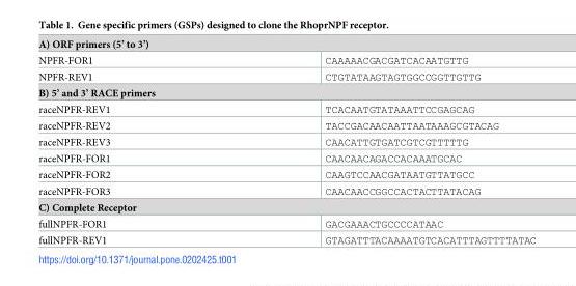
<table><tbody><tr><td colspan="2">A) ORF primers (5’ to 3’)</td></tr><tr><td>NPFR-FOR1</td><td>CAAAAACGACGATCACAATGTTG</td></tr><tr><td>NPFR-REV1</td><td>CTGTATAAGTAGTGGCCGGTTGTTG</td></tr><tr><td colspan="2">B) 5’ and 3’ RACE primers</td></tr><tr><td>raceNPFR-REV1</td><td>TCACAATGTATAAATTCCGAGCAG</td></tr><tr><td>raceNPFR-REV2</td><td>TACCGACAACAATTAATAAAGCGTACAG</td></tr><tr><td>raceNPFR-REV3</td><td>CAACATTGTGATCGTCGTTTTTG</td></tr><tr><td>raceNPFR-FOR1</td><td>CAACAACAGACCACAAATGCAC</td></tr><tr><td>raceNPFR-FOR2</td><td>CAAGTCCAACGATAATGTTATGCC</td></tr><tr><td>raceNPFR-FOR3</td><td>CAACAACCGGCCACTACTTATACAG</td></tr><tr><td colspan="2">C) Complete Receptor</td></tr><tr><td>fullNPFR-FOR1</td><td>GACGAAACTGCCCCATAAC</td></tr><tr><td>fullNPFR-REV1</td><td>GTAGATTTACAAAATGTCACATTTAGTTTTATAC</td></tr></tbody></table>